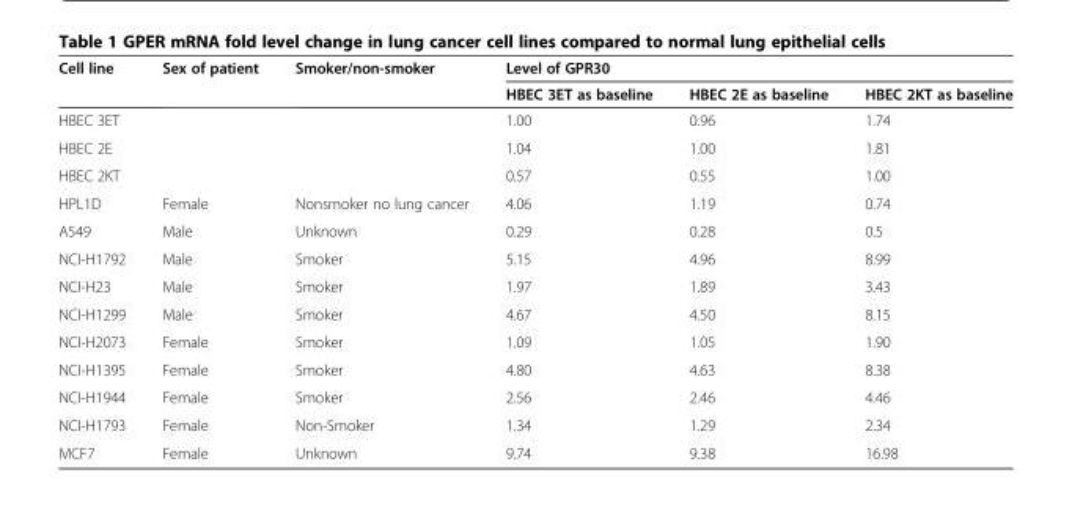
<table><thead><tr><td rowspan="2">Cell line</td><td rowspan="2">Sex of patient</td><td rowspan="2">Smoker/non-smoker</td><td colspan="3">Level of GPR30</td></tr><tr><td>HBEC 3ET as baseline</td><td>HBEC 2E as baseline</td><td>HBEC 2KT as baseline</td></tr></thead><tbody><tr><td>HBEC 3ET</td><td></td><td></td><td>1.00</td><td>0.96</td><td>1.74</td></tr><tr><td>HBEC 2E</td><td></td><td></td><td>1.04</td><td>1.00</td><td>1.81</td></tr><tr><td>HBEC 2KT</td><td></td><td></td><td>0.57</td><td>0.55</td><td>1.00</td></tr><tr><td>HPL1D</td><td>Female</td><td>Nonsmoker no lung cancer</td><td>4.06</td><td>1.19</td><td>0.74</td></tr><tr><td>A549</td><td>Male</td><td>Unknown</td><td>0.29</td><td>0.28</td><td>0.5</td></tr><tr><td>NCI-H1792</td><td>Male</td><td>Smoker</td><td>5.15</td><td>4.96</td><td>8.99</td></tr><tr><td>NCI-H23</td><td>Male</td><td>Smoker</td><td>1.97</td><td>1.89</td><td>3.43</td></tr><tr><td>NCI-H1299</td><td>Male</td><td>Smoker</td><td>4.67</td><td>4.50</td><td>8.15</td></tr><tr><td>NCI-H2073</td><td>Female</td><td>Smoker</td><td>1.09</td><td>1.05</td><td>1.90</td></tr><tr><td>NCI-H1395</td><td>Female</td><td>Smoker</td><td>4.80</td><td>4.63</td><td>8.38</td></tr><tr><td>NCI-H1944</td><td>Female</td><td>Smoker</td><td>2.56</td><td>2.46</td><td>4.46</td></tr><tr><td>NCI-H1793</td><td>Female</td><td>Non-Smoker</td><td>1.34</td><td>1.29</td><td>2.34</td></tr><tr><td>MCF7</td><td>Female</td><td>Unknown</td><td>9.74</td><td>9.38</td><td>16.98</td></tr></tbody></table>